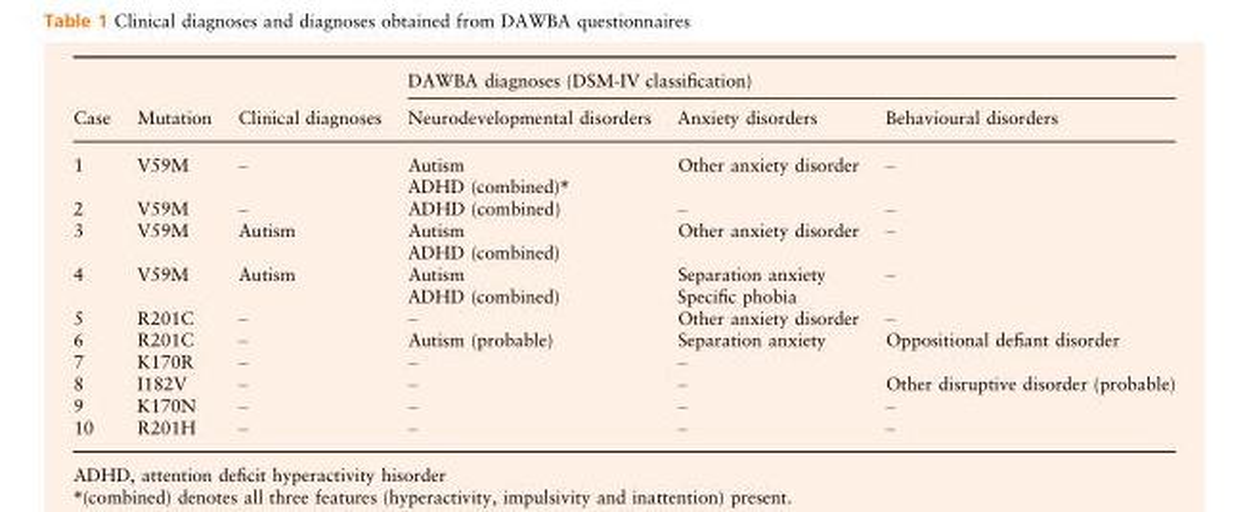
<table><thead><tr><td rowspan="2">Case</td><td rowspan="2">Mutation</td><td rowspan="2">Clinical diagnoses</td><td colspan="3">DAWBA diagnoses (DSM-IV classification)</td></tr><tr><td>Neurodevelopmental disorders</td><td>Anxiety disorders</td><td>Behavioural disorders</td></tr></thead><tbody><tr><td>1</td><td>V59M</td><td>–</td><td>Autism ADHD (combined)*</td><td>Other anxiety disorder</td><td>–</td></tr><tr><td>2</td><td>V59M</td><td>–</td><td>ADHD (combined)</td><td>–</td><td>–</td></tr><tr><td>3</td><td>V59M</td><td>Autism</td><td>Autism ADHD (combined)</td><td>Other anxiety disorder</td><td>–</td></tr><tr><td>4</td><td>V59M</td><td>Autism</td><td>Autism ADHD (combined)</td><td>Separation anxiety Specific phobia</td><td>–</td></tr><tr><td>5</td><td>R201C</td><td>–</td><td>–</td><td>Other anxiety disorder</td><td>–</td></tr><tr><td>6</td><td>R201C</td><td>–</td><td>Autism (probable)</td><td>Separation anxiety</td><td>Oppositional defiant disorder</td></tr><tr><td>7</td><td>K170R</td><td>–</td><td>–</td><td>–</td><td></td></tr><tr><td>8</td><td>I182V</td><td>–</td><td>–</td><td>–</td><td>Other disruptive disorder (probable)</td></tr><tr><td>9</td><td>K170N</td><td>–</td><td>–</td><td>–</td><td>–</td></tr><tr><td>10</td><td>R201H</td><td>–</td><td>–</td><td>–</td><td>–</td></tr></tbody></table>